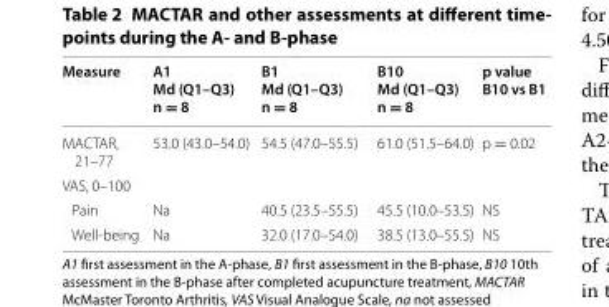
<table><thead><tr><td>Measure</td><td>A1 Md (Q1–Q3) n = 8</td><td>B1 Md (Q1–Q3) n = 8</td><td>B10 Md (Q1–Q3) n = 8</td><td>p value B10 vs B1</td></tr></thead><tbody><tr><td>MACTAR, 21–77</td><td>53.0 (43.0–54.0)</td><td>54.5 (47.0–55.5)</td><td>61.0 (51.5–64.0)</td><td>p = 0.02</td></tr><tr><td colspan="5">VAS, 0–100</td></tr><tr><td>Pain</td><td>Na</td><td>40.5 (23.5–55.5)</td><td>45.5 (10.0–53.5)</td><td>NS</td></tr><tr><td>Well-being</td><td>Na</td><td>32.0 (17.0–54.0)</td><td>38.5 (13.0–55.5)</td><td>NS</td></tr></tbody></table>